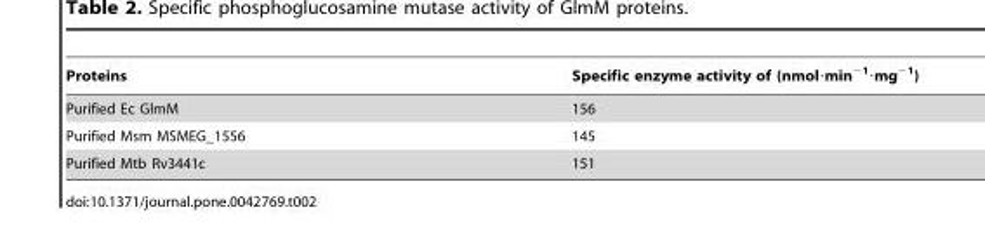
<table><thead><tr><td>Proteins</td><td>Specific enzyme activity of (nmol·min<sup>−1</sup>·mg<sup>−1</sup>)</td></tr></thead><tbody><tr><td>Purified Ec GlmM</td><td>156</td></tr><tr><td>Purified Msm MSMEG_1556</td><td>145</td></tr><tr><td>Purified Mtb Rv3441c</td><td>151</td></tr></tbody></table>